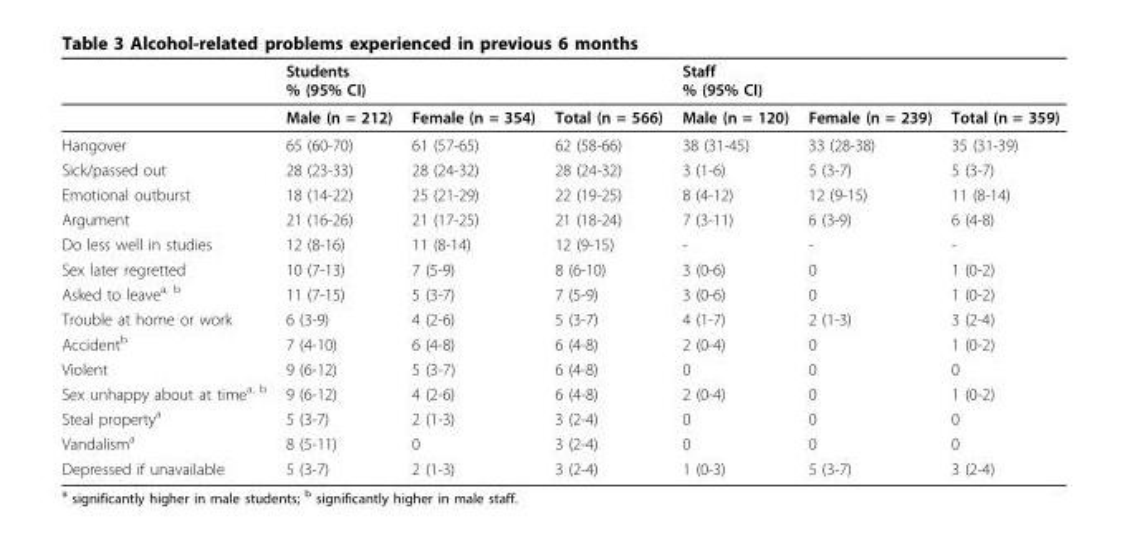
<table><thead><tr><td rowspan="2"></td><td colspan="3">Students % (95% CI)</td><td colspan="3">Staff % (95% CI)</td></tr><tr><td>Male (n = 212)</td><td>Female (n = 354)</td><td>Total (n = 566)</td><td>Male (n = 120)</td><td>Female (n = 239)</td><td>Total (n = 359)</td></tr></thead><tbody><tr><td>Hangover</td><td>65 (60-70)</td><td>61 (57-65)</td><td>62 (58-66)</td><td>38 (31-45)</td><td>33 (28-38)</td><td>35 (31-39)</td></tr><tr><td>Sick/passed out</td><td>28 (23-33)</td><td>28 (24-32)</td><td>28 (24-32)</td><td>3 (1-6)</td><td>5 (3-7)</td><td>5 (3-7)</td></tr><tr><td>Emotional outburst</td><td>18 (14-22)</td><td>25 (21-29)</td><td>22 (19-25)</td><td>8 (4-12)</td><td>12 (9-15)</td><td>11 (8-14)</td></tr><tr><td>Argument</td><td>21 (16-26)</td><td>21 (17-25)</td><td>21 (18-24)</td><td>7 (3-11)</td><td>6 (3-9)</td><td>6 (4-8)</td></tr><tr><td>Do less well in studies</td><td>12 (8-16)</td><td>11 (8-14)</td><td>12 (9-15)</td><td>-</td><td>-</td><td>-</td></tr><tr><td>Sex later regretted</td><td>10 (7-13)</td><td>7 (5-9)</td><td>8 (6-10)</td><td>3 (0-6)</td><td>0</td><td>1 (0-2)</td></tr><tr><td>Asked to leave<sup>a, b</sup></td><td>11 (7-15)</td><td>5 (3-7)</td><td>7 (5-9)</td><td>3 (0-6)</td><td>0</td><td>1 (0-2)</td></tr><tr><td>Trouble at home or work</td><td>6 (3-9)</td><td>4 (2-6)</td><td>5 (3-7)</td><td>4 (1-7)</td><td>2 (1-3)</td><td>3 (2-4)</td></tr><tr><td>Accident<sup>b</sup></td><td>7 (4-10)</td><td>6 (4-8)</td><td>6 (4-8)</td><td>2 (0-4)</td><td>0</td><td>1 (0-2)</td></tr><tr><td>Violent</td><td>9 (6-12)</td><td>5 (3-7)</td><td>6 (4-8)</td><td>0</td><td>0</td><td>0</td></tr><tr><td>Sex unhappy about at time<sup>a, b</sup></td><td>9 (6-12)</td><td>4 (2-6)</td><td>6 (4-8)</td><td>2 (0-4)</td><td>0</td><td>1 (0-2)</td></tr><tr><td>Steal property<sup>a</sup></td><td>5 (3-7)</td><td>2 (1-3)</td><td>3 (2-4)</td><td>0</td><td>0</td><td>0</td></tr><tr><td>Vandalism<sup>a</sup></td><td>8 (5-11)</td><td>0</td><td>3 (2-4)</td><td>0</td><td>0</td><td>0</td></tr><tr><td>Depressed if unavailable</td><td>5 (3-7)</td><td>2 (1-3)</td><td>3 (2-4)</td><td>1 (0-3)</td><td>5 (3-7)</td><td>3 (2-4)</td></tr></tbody></table>